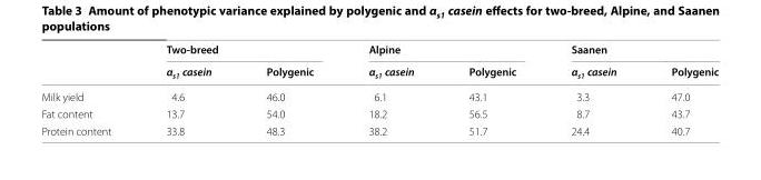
<table><thead><tr><td rowspan="2"></td><td colspan="2">Two‑breed</td><td colspan="2">Alpine</td><td colspan="2">Saanen</td></tr><tr><td>α<sub>s1</sub> casein</td><td>Polygenic</td><td>α<sub>s1</sub> casein</td><td>Polygenic</td><td>α<sub>s1</sub> casein</td><td>Polygenic</td></tr></thead><tbody><tr><td>Milk yield</td><td>4.6</td><td>46.0</td><td>6.1</td><td>43.1</td><td>3.3</td><td>47.0</td></tr><tr><td>Fat content</td><td>13.7</td><td>54.0</td><td>18.2</td><td>56.5</td><td>8.7</td><td>43.7</td></tr><tr><td>Protein content</td><td>33.8</td><td>48.3</td><td>38.2</td><td>51.7</td><td>24.4</td><td>40.7</td></tr></tbody></table>